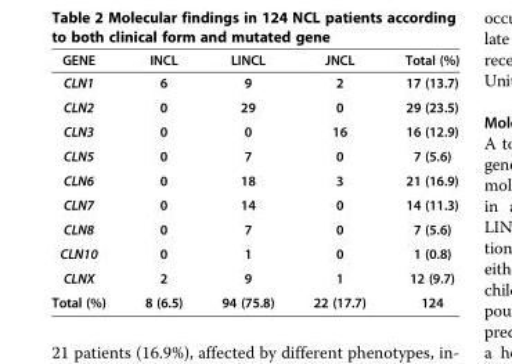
<table><thead><tr><td>GENE</td><td>INCL</td><td>LINCL</td><td>JNCL</td><td>Total (%)</td></tr></thead><tbody><tr><td>CLN1</td><td>6</td><td>9</td><td>2</td><td>17 (13.7)</td></tr><tr><td>CLN2</td><td>0</td><td>29</td><td>0</td><td>29 (23.5)</td></tr><tr><td>CLN3</td><td>0</td><td>0</td><td>16</td><td>16 (12.9)</td></tr><tr><td>CLN5</td><td>0</td><td>7</td><td>0</td><td>7 (5.6)</td></tr><tr><td>CLN6</td><td>0</td><td>18</td><td>3</td><td>21 (16.9)</td></tr><tr><td>CLN7</td><td>0</td><td>14</td><td>0</td><td>14 (11.3)</td></tr><tr><td>CLN8</td><td>0</td><td>7</td><td>0</td><td>7 (5.6)</td></tr><tr><td>CLN10</td><td>0</td><td>1</td><td>0</td><td>1 (0.8)</td></tr><tr><td>CLNX</td><td>2</td><td>9</td><td>1</td><td>12 (9.7)</td></tr><tr><td>Total (%)</td><td>8 (6.5)</td><td>94 (75.8)</td><td>22 (17.7)</td><td>124</td></tr></tbody></table>